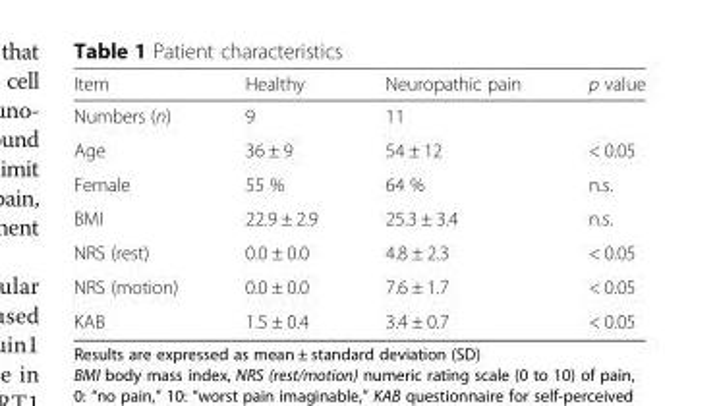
<table><thead><tr><td>Item</td><td>Healthy</td><td>Neuropathic pain</td><td>p value</td></tr></thead><tbody><tr><td>Numbers (n)</td><td>9</td><td>11</td><td></td></tr><tr><td>Age</td><td>36 ± 9</td><td>54 ± 12</td><td>&lt; 0.05</td></tr><tr><td>Female</td><td>55 %</td><td>64 %</td><td>n.s.</td></tr><tr><td>BMI</td><td>22.9 ± 2.9</td><td>25.3 ± 3.4</td><td>n.s.</td></tr><tr><td>NRS (rest)</td><td>0.0 ± 0.0</td><td>4.8 ± 2.3</td><td>&lt; 0.05</td></tr><tr><td>NRS (motion)</td><td>0.0 ± 0.0</td><td>7.6 ± 1.7</td><td>&lt; 0.05</td></tr><tr><td>KAB</td><td>1.5 ± 0.4</td><td>3.4 ± 0.7</td><td>&lt; 0.05</td></tr></tbody></table>